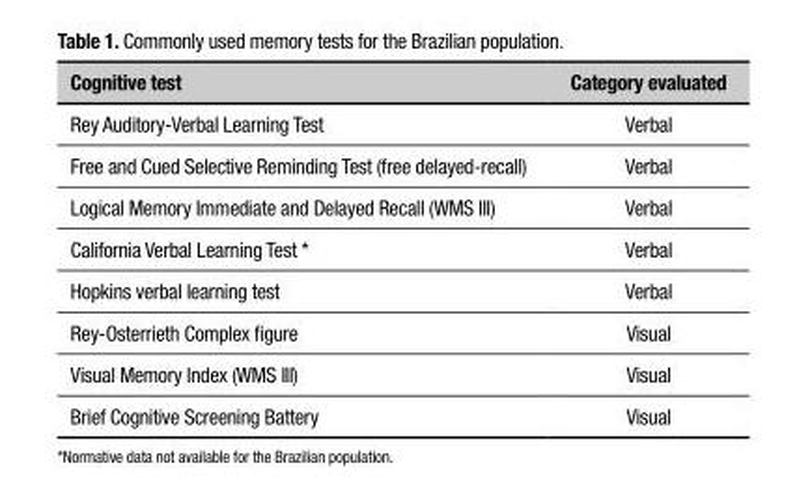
<table><thead><tr><td>Cognitive test</td><td>Category evaluated</td></tr></thead><tbody><tr><td>Rey Auditory-Verbal Learning Test</td><td>Verbal</td></tr><tr><td>Free and Cued Selective Reminding Test (free delayed-recall)</td><td>Verbal</td></tr><tr><td>Logical Memory Immediate and Delayed Recall (WMS III)</td><td>Verbal</td></tr><tr><td>California Verbal Learning Test *</td><td>Verbal</td></tr><tr><td>Hopkins verbal learning test</td><td>Verbal</td></tr><tr><td>Rey-Osterrieth Complex figure</td><td>Visual</td></tr><tr><td>Visual Memory Index (WMS III)</td><td>Visual</td></tr><tr><td>Brief Cognitive Screening Battery</td><td>Visual</td></tr></tbody></table>